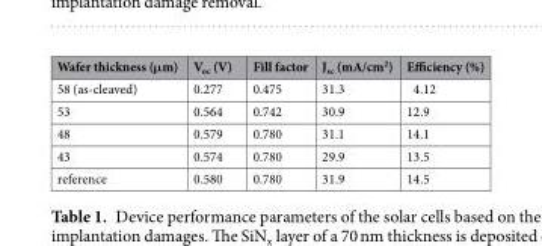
<table><thead><tr><td>Wafer thickness (μm)</td><td>V<sub>oc</sub> (V)</td><td>Fill factor</td><td>J<sub>sc</sub> (mA/cm<sup>2</sup>)</td><td>Efficiency (%)</td></tr></thead><tbody><tr><td>58 (as-cleaved)</td><td>0.277</td><td>0.475</td><td>31.3</td><td>4.12</td></tr><tr><td>53</td><td>0.564</td><td>0.742</td><td>30.9</td><td>12.9</td></tr><tr><td>48</td><td>0.579</td><td>0.780</td><td>31.1</td><td>14.1</td></tr><tr><td>43</td><td>0.574</td><td>0.780</td><td>29.9</td><td>13.5</td></tr><tr><td>reference</td><td>0.580</td><td>0.780</td><td>31.9</td><td>14.5</td></tr></tbody></table>